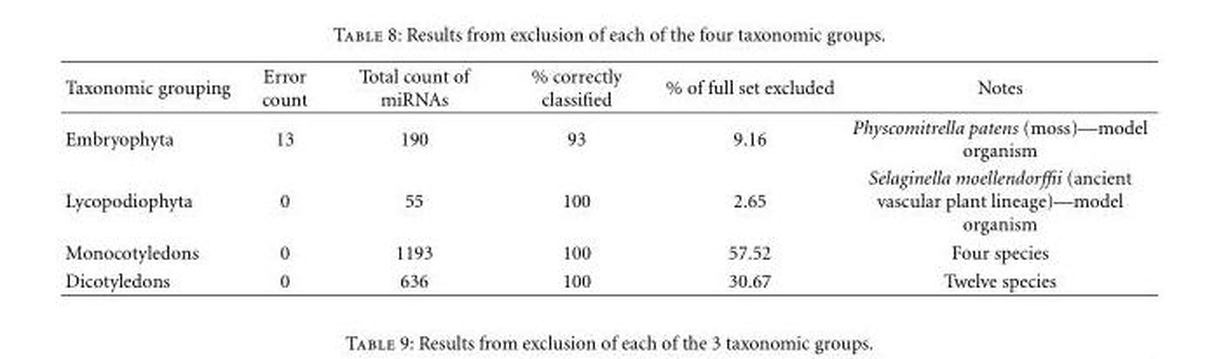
<table><thead><tr><td>Taxonomic grouping</td><td>Error count</td><td>Total count of miRNAs</td><td>% correctly classified</td><td>% of full set excluded</td><td>Notes</td></tr></thead><tbody><tr><td>Embryophyta</td><td>13</td><td>190</td><td>93</td><td>9.16</td><td>Physcomitrella patens (moss)—model organism</td></tr><tr><td>Lycopodiophyta</td><td>0</td><td>55</td><td>100</td><td>2.65</td><td>Selaginella moellendorffii (ancient vascular plant lineage)—model organism</td></tr><tr><td>Monocotyledons</td><td>0</td><td>1193</td><td>100</td><td>57.52</td><td>Four species</td></tr><tr><td>Dicotyledons</td><td>0</td><td>636</td><td>100</td><td>30.67</td><td>Twelve species</td></tr></tbody></table>